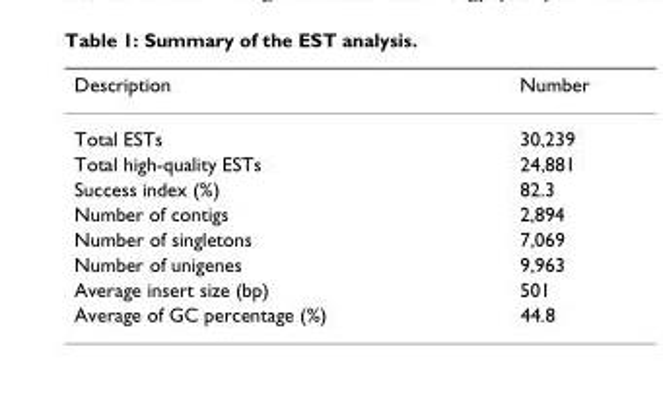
<table><thead><tr><td>Description</td><td>Number</td></tr></thead><tbody><tr><td>Total ESTs</td><td>30,239</td></tr><tr><td>Total high-quality ESTs</td><td>24,881</td></tr><tr><td>Success index (%)</td><td>82.3</td></tr><tr><td>Number of contigs</td><td>2,894</td></tr><tr><td>Number of singletons</td><td>7,069</td></tr><tr><td>Number of unigenes</td><td>9,963</td></tr><tr><td>Average insert size (bp)</td><td>501</td></tr><tr><td>Average of GC percentage (%)</td><td>44.8</td></tr></tbody></table>